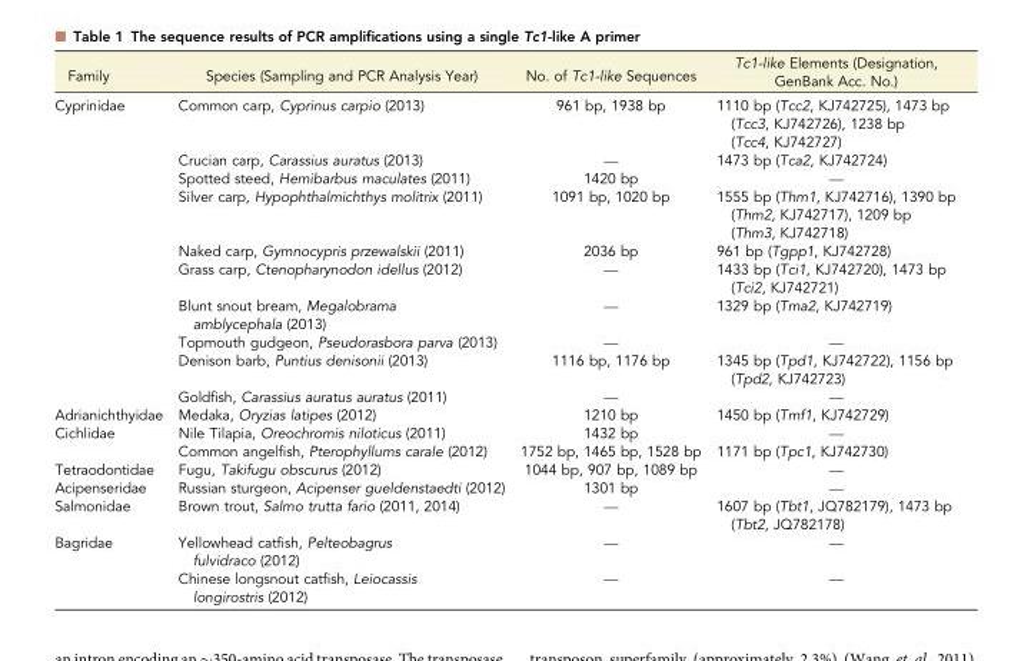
<table><thead><tr><td>Family</td><td>Species (Sampling and PCR Analysis Year)</td><td>No. of Tc1-like Sequences</td><td>Tc1-like Elements (Designation, GenBank Acc. No.)</td></tr></thead><tbody><tr><td rowspan="10">Cyprinidae</td><td>Common carp, Cyprinus carpio (2013)</td><td>961 bp, 1938 bp</td><td>1110 bp (Tcc2, KJ742725), 1473 bp (Tcc3, KJ742726), 1238 bp (Tcc4, KJ742727)</td></tr><tr><td>Crucian carp, Carassius auratus (2013)</td><td>—</td><td>1473 bp (Tca2, KJ742724)</td></tr><tr><td>Spotted steed, Hemibarbus maculates (2011)</td><td>1420 bp</td><td>—</td></tr><tr><td>Silver carp, Hypophthalmichthys molitrix (2011)</td><td>1091 bp, 1020 bp</td><td>1555 bp (Thm1, KJ742716), 1390 bp (Thm2, KJ742717), 1209 bp (Thm3, KJ742718)</td></tr><tr><td>Naked carp, Gymnocypris przewalskii (2011)</td><td>2036 bp</td><td>961 bp (Tgpp1, KJ742728)</td></tr><tr><td>Grass carp, Ctenopharynodon idellus (2012)</td><td>—</td><td>1433 bp (Tci1, KJ742720), 1473 bp (Tci2, KJ742721)</td></tr><tr><td>Blunt snout bream, Megalobrama amblycephala (2013)</td><td>—</td><td>1329 bp (Tma2, KJ742719)</td></tr><tr><td>Topmouth gudgeon, Pseudorasbora parva (2013)</td><td>—</td><td>—</td></tr><tr><td>Denison barb, Puntius denisonii (2013)</td><td>1116 bp, 1176 bp</td><td>1345 bp (Tpd1, KJ742722), 1156 bp (Tpd2, KJ742723)</td></tr><tr><td>Goldfish, Carassius auratus auratus (2011)</td><td>—</td><td>—</td></tr><tr><td>Adrianichthyidae</td><td>Medaka, Oryzias latipes (2012)</td><td>1210 bp</td><td>1450 bp (Tmf1, KJ742729)</td></tr><tr><td rowspan="2">Cichlidae</td><td>Nile Tilapia, Oreochromis niloticus (2011)</td><td>1432 bp</td><td>—</td></tr><tr><td>Common angelfish, Pterophyllums carale (2012)</td><td>1752 bp, 1465 bp, 1528 bp</td><td>1171 bp (Tpc1, KJ742730)</td></tr><tr><td>Tetraodontidae</td><td>Fugu, Takifugu obscurus (2012)</td><td>1044 bp, 907 bp, 1089 bp</td><td>—</td></tr><tr><td>Acipenseridae</td><td>Russian sturgeon, Acipenser gueldenstaedti (2012)</td><td>1301 bp</td><td>—</td></tr><tr><td>Salmonidae</td><td>Brown trout, Salmo trutta fario (2011, 2014)</td><td>—</td><td>1607 bp (Tbt1, JQ782179), 1473 bp (Tbt2, JQ782178)</td></tr><tr><td rowspan="2">Bagridae</td><td>Yellowhead catfish, Pelteobagrus fulvidraco (2012)</td><td>—</td><td>—</td></tr><tr><td>Chinese longsnout catfish, Leiocassis longirostris (2012)</td><td>—</td><td>—</td></tr></tbody></table>